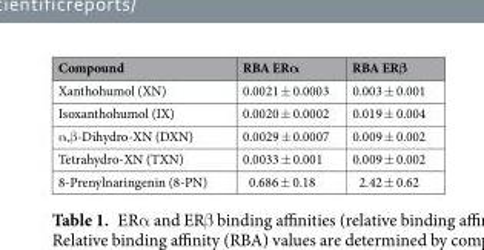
<table><thead><tr><td>Compound</td><td>RBA ERα</td><td>RBA ERβ</td></tr></thead><tbody><tr><td>Xanthohumol (XN)</td><td>0.0021 ± 0.0003</td><td>0.003 ± 0.001</td></tr><tr><td>Isoxanthohumol (IX)</td><td>0.0020 ± 0.0002</td><td>0.019 ± 0.004</td></tr><tr><td>α,β-Dihydro-XN (DXN)</td><td>0.0029 ± 0.0007</td><td>0.009 ± 0.002</td></tr><tr><td>Tetrahydro-XN (TXN)</td><td>0.0033 ± 0.001</td><td>0.009 ± 0.002</td></tr><tr><td>8-Prenylnaringenin (8-PN)</td><td>0.686 ± 0.18</td><td>2.42 ± 0.62</td></tr></tbody></table>